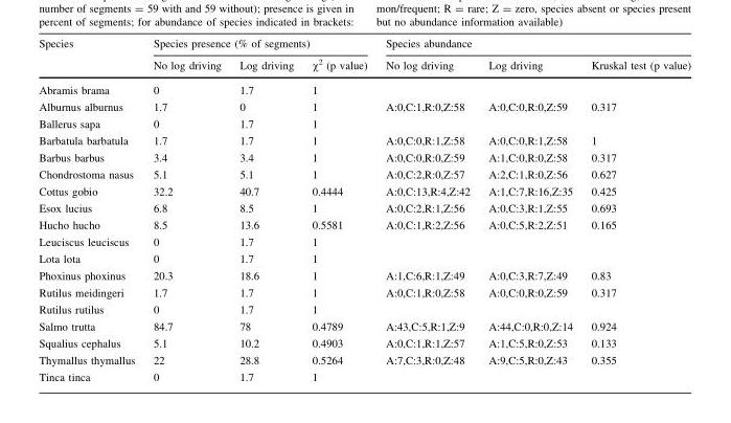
<table><thead><tr><td rowspan="2">Species</td><td colspan="3">Species presence (% of segments)</td><td colspan="3">Species abundance</td></tr><tr><td>No log driving</td><td>Log driving</td><td>χ<sup>2</sup> (p value)</td><td>No log driving</td><td>Log driving</td><td>Kruskal test (p value)</td></tr></thead><tbody><tr><td>Abramis brama</td><td>0</td><td>1.7</td><td>1</td><td></td><td></td><td></td></tr><tr><td>Alburnus alburnus</td><td>1.7</td><td>0</td><td>1</td><td>A:0,C:1,R:0,Z:58</td><td>A:0,C:0,R:0,Z:59</td><td>0.317</td></tr><tr><td>Ballerus sapa</td><td>0</td><td>1.7</td><td>1</td><td></td><td></td><td></td></tr><tr><td>Barbatula barbatula</td><td>1.7</td><td>1.7</td><td>1</td><td>A:0,C:0,R:1,Z:58</td><td>A:0,C:0,R:1,Z:58</td><td>1</td></tr><tr><td>Barbus barbus</td><td>3.4</td><td>3.4</td><td>1</td><td>A:0,C:0,R:0,Z:59</td><td>A:1,C:0,R:0,Z:58</td><td>0.317</td></tr><tr><td>Chondrostoma nasus</td><td>5.1</td><td>5.1</td><td>1</td><td>A:0,C:2,R:0,Z:57</td><td>A:2,C:1,R:0,Z:56</td><td>0.627</td></tr><tr><td>Cottus gobio</td><td>32.2</td><td>40.7</td><td>0.4444</td><td>A:0,C:13,R:4,Z:42</td><td>A:1,C:7,R:16,Z:35</td><td>0.425</td></tr><tr><td>Esox lucius</td><td>6.8</td><td>8.5</td><td>1</td><td>A:0,C:2,R:1,Z:56</td><td>A:0,C:3,R:1,Z:55</td><td>0.693</td></tr><tr><td>Hucho hucho</td><td>8.5</td><td>13.6</td><td>0.5581</td><td>A:0,C:1,R:2,Z:56</td><td>A:0,C:5,R:2,Z:51</td><td>0.165</td></tr><tr><td>Leuciscus leuciscus</td><td>0</td><td>1.7</td><td>1</td><td></td><td></td><td></td></tr><tr><td>Lota lota</td><td>0</td><td>1.7</td><td>1</td><td></td><td></td><td></td></tr><tr><td>Phoxinus phoxinus</td><td>20.3</td><td>18.6</td><td>1</td><td>A:1,C:6,R:1,Z:49</td><td>A:0,C:3,R:7,Z:49</td><td>0.83</td></tr><tr><td>Rutilus meidingeri</td><td>1.7</td><td>1.7</td><td>1</td><td>A:0,C:1,R:0,Z:58</td><td>A:0,C:0,R:0,Z:59</td><td>0.317</td></tr><tr><td>Rutilus rutilus</td><td>0</td><td>1.7</td><td>1</td><td></td><td></td><td></td></tr><tr><td>Salmo trutta</td><td>84.7</td><td>78</td><td>0.4789</td><td>A:43,C:5,R:1,Z:9</td><td>A:44,C:0,R:0,Z:14</td><td>0.924</td></tr><tr><td>Squalius cephalus</td><td>5.1</td><td>10.2</td><td>0.4903</td><td>A:0,C:1,R:1,Z:57</td><td>A:1,C:5,R:0,Z:53</td><td>0.133</td></tr><tr><td>Thymallus thymallus</td><td>22</td><td>28.8</td><td>0.5264</td><td>A:7,C:3,R:0,Z:48</td><td>A:9,C:5,R:0,Z:43</td><td>0.355</td></tr><tr><td>Tinca tinca</td><td>0</td><td>1.7</td><td>1</td><td></td><td></td><td></td></tr></tbody></table>